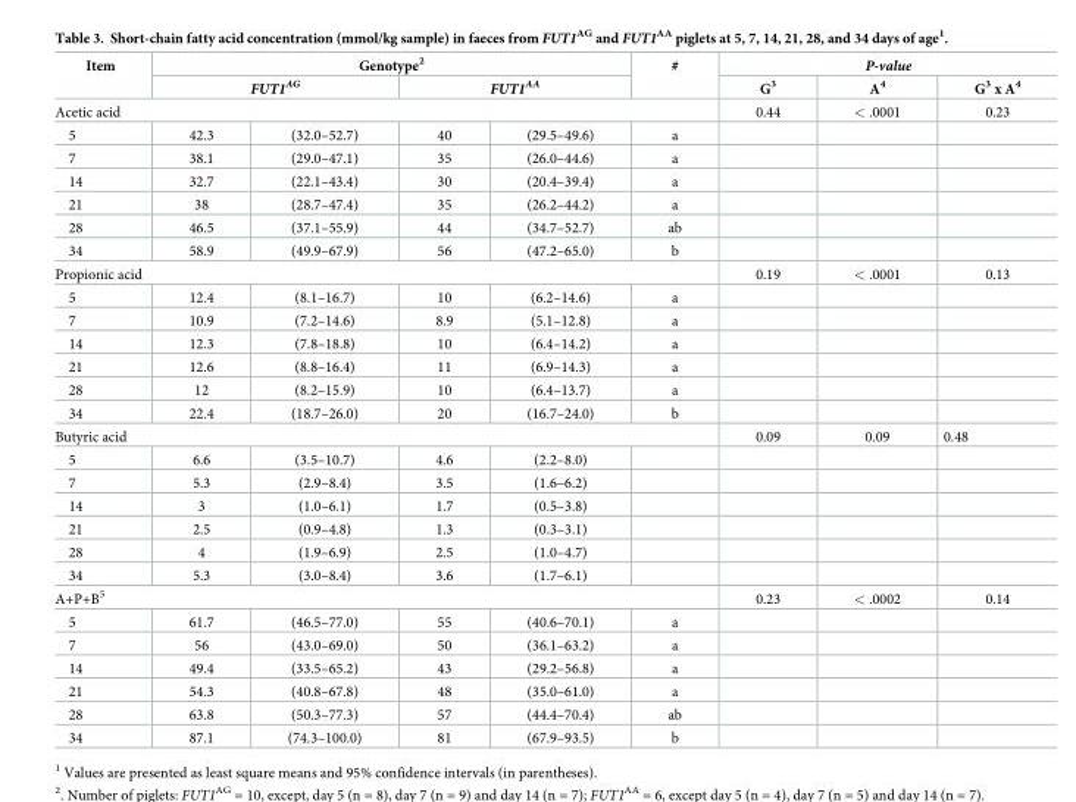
<table><thead><tr><td rowspan="2">Item</td><td colspan="4">Genotype<sup>2</sup></td><td rowspan="2">#</td><td colspan="3">P-value</td></tr><tr><td colspan="2">FUT1<sup>AG</sup></td><td colspan="2">FUT1<sup>AA</sup></td><td rowspan="3">G<sup>3</sup> 0.44</td><td rowspan="3">A<sup>4</sup> &lt; .0001</td><td rowspan="3">G<sup>3</sup> x A<sup>4</sup> 0.23</td></tr><tr><td colspan="6">Acetic acid</td></tr><tr><td>5</td><td>42.3</td><td>(32.0–52.7)</td><td>40</td><td>(29.5–49.6)</td><td>a</td></tr></thead><tbody><tr><td>7</td><td>38.1</td><td>(29.0–47.1)</td><td>35</td><td>(26.0–44.6)</td><td>a</td><td></td><td></td><td></td></tr><tr><td>14</td><td>32.7</td><td>(22.1–43.4)</td><td>30</td><td>(20.4–39.4)</td><td>a</td><td></td><td></td><td></td></tr><tr><td>21</td><td>38</td><td>(28.7–47.4)</td><td>35</td><td>(26.2–44.2)</td><td>a</td><td></td><td></td><td></td></tr><tr><td>28</td><td>46.5</td><td>(37.1–55.9)</td><td>44</td><td>(34.7–52.7)</td><td>ab</td><td></td><td></td><td></td></tr><tr><td>34</td><td>58.9</td><td>(49.9–67.9)</td><td>56</td><td>(47.2–65.0)</td><td>b</td><td></td><td></td><td></td></tr><tr><td colspan="6">Propionic acid</td><td>0.19</td><td>&lt; .0001</td><td>0.13</td></tr><tr><td>5</td><td>12.4</td><td>(8.1–16.7)</td><td>10</td><td>(6.2–14.6)</td><td>a</td><td></td><td></td><td></td></tr><tr><td>7</td><td>10.9</td><td>(7.2–14.6)</td><td>8.9</td><td>(5.1–12.8)</td><td>a</td><td></td><td></td><td></td></tr><tr><td>14</td><td>12.3</td><td>(7.8–18.8)</td><td>10</td><td>(6.4–14.2)</td><td>a</td><td></td><td></td><td></td></tr><tr><td>21</td><td>12.6</td><td>(8.8–16.4)</td><td>11</td><td>(6.9–14.3)</td><td>a</td><td></td><td></td><td></td></tr><tr><td>28</td><td>12</td><td>(8.2–15.9)</td><td>10</td><td>(6.4–13.7)</td><td>a</td><td></td><td></td><td></td></tr><tr><td>34</td><td>22.4</td><td>(18.7–26.0)</td><td>20</td><td>(16.7–24.0)</td><td>b</td><td></td><td></td><td></td></tr><tr><td colspan="6">Butyric acid</td><td>0.09</td><td>0.09</td><td>0.48</td></tr><tr><td>5</td><td>6.6</td><td>(3.5–10.7)</td><td>4.6</td><td>(2.2–8.0)</td><td></td><td></td><td></td><td></td></tr><tr><td>7</td><td>5.3</td><td>(2.9–8.4)</td><td>3.5</td><td>(1.6–6.2)</td><td></td><td></td><td></td><td></td></tr><tr><td>14</td><td>3</td><td>(1.0–6.1)</td><td>1.7</td><td>(0.5–3.8)</td><td></td><td></td><td></td><td></td></tr><tr><td>21</td><td>2.5</td><td>(0.9–4.8)</td><td>1.3</td><td>(0.3–3.1)</td><td></td><td></td><td></td><td></td></tr><tr><td>28</td><td>4</td><td>(1.9–6.9)</td><td>2.5</td><td>(1.0–4.7)</td><td></td><td></td><td></td><td></td></tr><tr><td>34</td><td>5.3</td><td>(3.0–8.4)</td><td>3.6</td><td>(1.7–6.1)</td><td></td><td></td><td></td><td></td></tr><tr><td colspan="6">A+P+B<sup>5</sup></td><td>0.23</td><td>&lt; .0002</td><td>0.14</td></tr><tr><td>5</td><td>61.7</td><td>(46.5–77.0)</td><td>55</td><td>(40.6–70.1)</td><td>a</td><td></td><td></td><td></td></tr><tr><td>7</td><td>56</td><td>(43.0–69.0)</td><td>50</td><td>(36.1–63.2)</td><td>a</td><td></td><td></td><td></td></tr><tr><td>14</td><td>49.4</td><td>(33.5–65.2)</td><td>43</td><td>(29.2–56.8)</td><td>a</td><td></td><td></td><td></td></tr><tr><td>21</td><td>54.3</td><td>(40.8–67.8)</td><td>48</td><td>(35.0–61.0)</td><td>a</td><td></td><td></td><td></td></tr><tr><td>28</td><td>63.8</td><td>(50.3–77.3)</td><td>57</td><td>(44.4–70.4)</td><td>ab</td><td></td><td></td><td></td></tr><tr><td>34</td><td>87.1</td><td>(74.3–100.0)</td><td>81</td><td>(67.9–93.5)</td><td>b</td><td></td><td></td><td></td></tr></tbody></table>